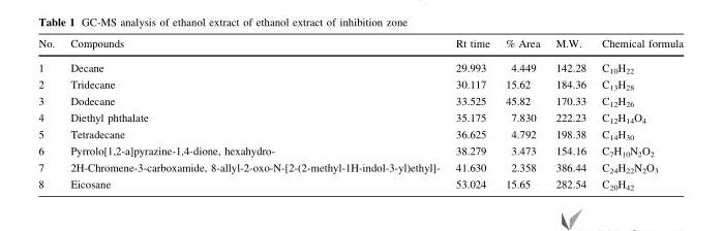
<table><thead><tr><td>No.</td><td>Compounds</td><td>Rt time</td><td>% Area</td><td>M.W.</td><td>Chemical formula</td></tr></thead><tbody><tr><td>1</td><td>Decane</td><td>29.993</td><td>4.449</td><td>142.28</td><td>C<sub>10</sub>H<sub>22</sub></td></tr><tr><td>2</td><td>Tridecane</td><td>30.117</td><td>15.62</td><td>184.36</td><td>C<sub>13</sub>H<sub>28</sub></td></tr><tr><td>3</td><td>Dodecane</td><td>33.525</td><td>45.82</td><td>170.33</td><td>C<sub>12</sub>H<sub>26</sub></td></tr><tr><td>4</td><td>Diethyl phthalate</td><td>35.175</td><td>7.830</td><td>222.23</td><td>C<sub>12</sub>H<sub>14</sub>O<sub>4</sub></td></tr><tr><td>5</td><td>Tetradecane</td><td>36.625</td><td>4.792</td><td>198.38</td><td>C<sub>14</sub>H<sub>30</sub></td></tr><tr><td>6</td><td>Pyrrolo[1,2-a]pyrazine-1,4-dione, hexahydro-</td><td>38.279</td><td>3.473</td><td>154.16</td><td>C<sub>7</sub>H<sub>10</sub>N<sub>2</sub>O<sub>2</sub></td></tr><tr><td>7</td><td>2H-Chromene-3-carboxamide, 8-allyl-2-oxo-N-[2-(2-methyl-1H-indol-3-yl)ethyl]-</td><td>41.630</td><td>2.358</td><td>386.44</td><td>C<sub>24</sub>H<sub>22</sub>N<sub>2</sub>O<sub>3</sub></td></tr><tr><td>8</td><td>Eicosane</td><td>53.024</td><td>15.65</td><td>282.54</td><td>C<sub>20</sub>H<sub>42</sub></td></tr></tbody></table>